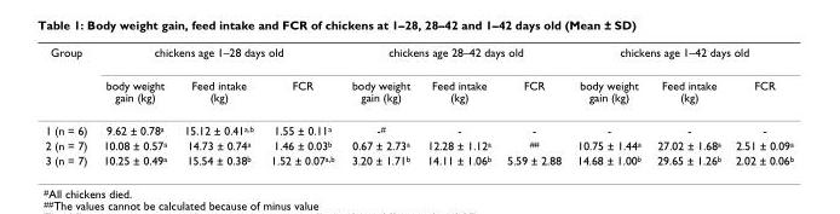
<table><thead><tr><td rowspan="2">Group</td><td colspan="3">chickens age 1–28 days old</td><td colspan="3">chickens age 28–42 days old</td><td colspan="3">chickens age 1–42 days old</td></tr><tr><td>body weight gain (kg)</td><td>Feed intake (kg)</td><td>FCR</td><td>body weight gain (kg)</td><td>Feed intake (kg)</td><td>FCR</td><td>body weight gain (kg)</td><td>Feed intake (kg)</td><td>FCR</td></tr></thead><tbody><tr><td>1 (n = 6)</td><td>9.62 ± 0.78<sup>a</sup></td><td>15.12 ± 0.41<sup>a,b</sup></td><td>1.55 ± 0.11<sup>a</sup></td><td>-<sup>#</sup></td><td>-</td><td>-</td><td>-</td><td>-</td><td>-</td></tr><tr><td>2 (n = 7)</td><td>10.08 ± 0.57<sup>a</sup></td><td>14.73 ± 0.74<sup>a</sup></td><td>1.46 ± 0.03<sup>b</sup></td><td>0.67 ± 2.73<sup>a</sup></td><td>12.28 ± 1.12<sup>a</sup></td><td><sup>##</sup></td><td>10.75 ± 1.44<sup>a</sup></td><td>27.02 ± 1.68<sup>a</sup></td><td>2.51 ± 0.09<sup>a</sup></td></tr><tr><td>3 (n = 7)</td><td>10.25 ± 0.49<sup>a</sup></td><td>15.54 ± 0.38<sup>b</sup></td><td>1.52 ± 0.07<sup>a,b</sup></td><td>3.20 ± 1.71<sup>b</sup></td><td>14.11 ± 1.06<sup>b</sup></td><td>5.59 ± 2.88</td><td>14.68 ± 1.00<sup>b</sup></td><td>29.65 ± 1.26<sup>b</sup></td><td>2.02 ± 0.06<sup>b</sup></td></tr></tbody></table>